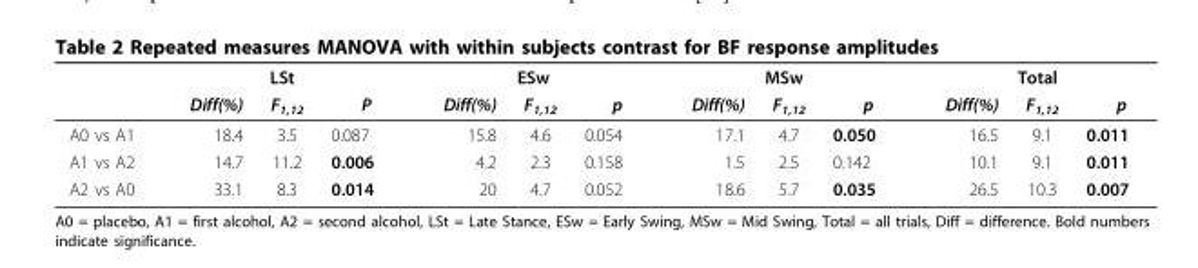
<table><thead><tr><td rowspan="2"></td><td colspan="3">LSt</td><td colspan="3">ESw</td><td colspan="3">MSw</td><td colspan="3">Total</td></tr><tr><td>Diff(%)</td><td>F<sub>1,12</sub></td><td>P</td><td>Diff(%)</td><td>F<sub>1,12</sub></td><td>p</td><td>Diff(%)</td><td>F<sub>1,12</sub></td><td>p</td><td>Diff(%)</td><td>F<sub>1,12</sub></td><td>p</td></tr></thead><tbody><tr><td>A0 vs A1</td><td>18.4</td><td>3.5</td><td>0.087</td><td>15.8</td><td>4.6</td><td>0.054</td><td>17.1</td><td>4.7</td><td>0.050</td><td>16.5</td><td>9.1</td><td>0.011</td></tr><tr><td>A1 vs A2</td><td>14.7</td><td>11.2</td><td>0.006</td><td>4.2</td><td>2.3</td><td>0.158</td><td>1.5</td><td>2.5</td><td>0.142</td><td>10.1</td><td>9.1</td><td>0.011</td></tr><tr><td>A2 vs A0</td><td>33.1</td><td>8.3</td><td>0.014</td><td>20</td><td>4.7</td><td>0.052</td><td>18.6</td><td>5.7</td><td>0.035</td><td>26.5</td><td>10.3</td><td>0.007</td></tr></tbody></table>